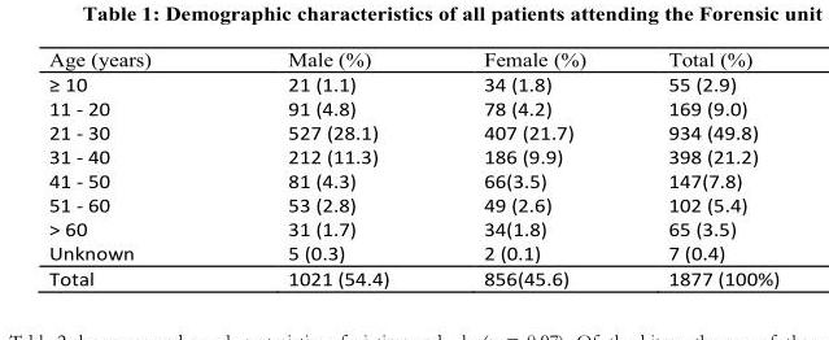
<table><thead><tr><td>Age (years)</td><td>Male (%)</td><td>Female (%)</td><td>Total (%)</td></tr></thead><tbody><tr><td>≥ 10</td><td>21 (1.1)</td><td>34 (1.8)</td><td>55 (2.9)</td></tr><tr><td>11 - 20</td><td>91 (4.8)</td><td>78 (4.2)</td><td>169 (9.0)</td></tr><tr><td>21 - 30</td><td>527 (28.1)</td><td>407 (21.7)</td><td>934 (49.8)</td></tr><tr><td>31 - 40</td><td>212 (11.3)</td><td>186 (9.9)</td><td>398 (21.2)</td></tr><tr><td>41 - 50</td><td>81 (4.3)</td><td>66(3.5)</td><td>147(7.8)</td></tr><tr><td>51 - 60</td><td>53 (2.8)</td><td>49 (2.6)</td><td>102 (5.4)</td></tr><tr><td>&gt; 60</td><td>31 (1.7)</td><td>34(1.8)</td><td>65 (3.5)</td></tr><tr><td>Unknown</td><td>5 (0.3)</td><td>2 (0.1)</td><td>7 (0.4)</td></tr><tr><td>Total</td><td>1021 (54.4)</td><td>856(45.6)</td><td>1877 (100%)</td></tr></tbody></table>